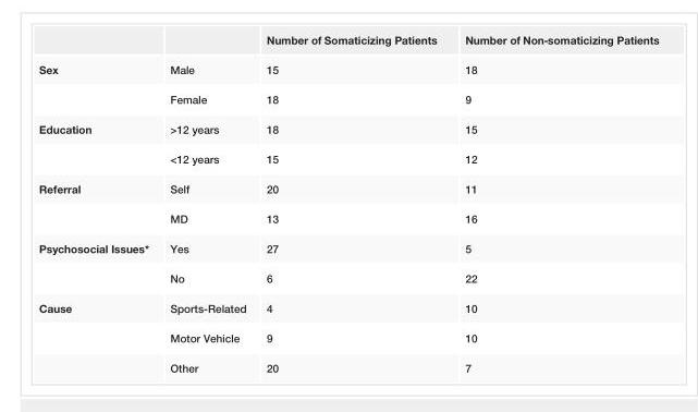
<table><thead><tr><td></td><td></td><td>Number of Somaticizing Patients</td><td>Number of Non-somaticizing Patients</td></tr></thead><tbody><tr><td rowspan="2">Sex</td><td>Male</td><td>15</td><td>18</td></tr><tr><td>Female</td><td>18</td><td>9</td></tr><tr><td rowspan="2">Education</td><td>&gt;12 years</td><td>18</td><td>15</td></tr><tr><td>&lt;12 years</td><td>15</td><td>12</td></tr><tr><td rowspan="2">Referral</td><td>Self</td><td>20</td><td>11</td></tr><tr><td>MD</td><td>13</td><td>16</td></tr><tr><td rowspan="2">Psychosocial Issues*</td><td>Yes</td><td>27</td><td>5</td></tr><tr><td>No</td><td>6</td><td>22</td></tr><tr><td rowspan="3">Cause</td><td>Sports-Related</td><td>4</td><td>10</td></tr><tr><td>Motor Vehicle</td><td>9</td><td>10</td></tr><tr><td>Other</td><td>20</td><td>7</td></tr></tbody></table>